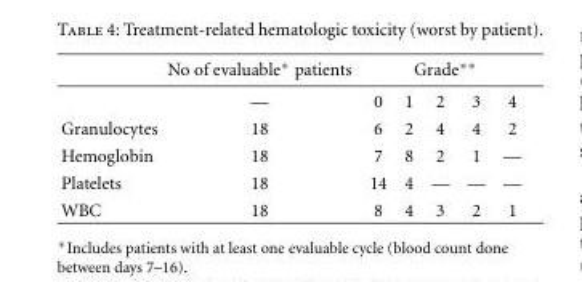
<table><thead><tr><td rowspan="2"></td><td rowspan="2">No of evaluable * patients —</td><td colspan="5">Grade **</td></tr><tr><td>0</td><td>1</td><td>2</td><td>3</td><td>4</td></tr></thead><tbody><tr><td>Granulocytes</td><td>18</td><td>6</td><td>2</td><td>4</td><td>4</td><td>2</td></tr><tr><td>Hemoglobin</td><td>18</td><td>7</td><td>8</td><td>2</td><td>1</td><td>—</td></tr><tr><td>Platelets</td><td>18</td><td>14</td><td>4</td><td>—</td><td>—</td><td>—</td></tr><tr><td>WBC</td><td>18</td><td>8</td><td>4</td><td>3</td><td>2</td><td>1</td></tr></tbody></table>